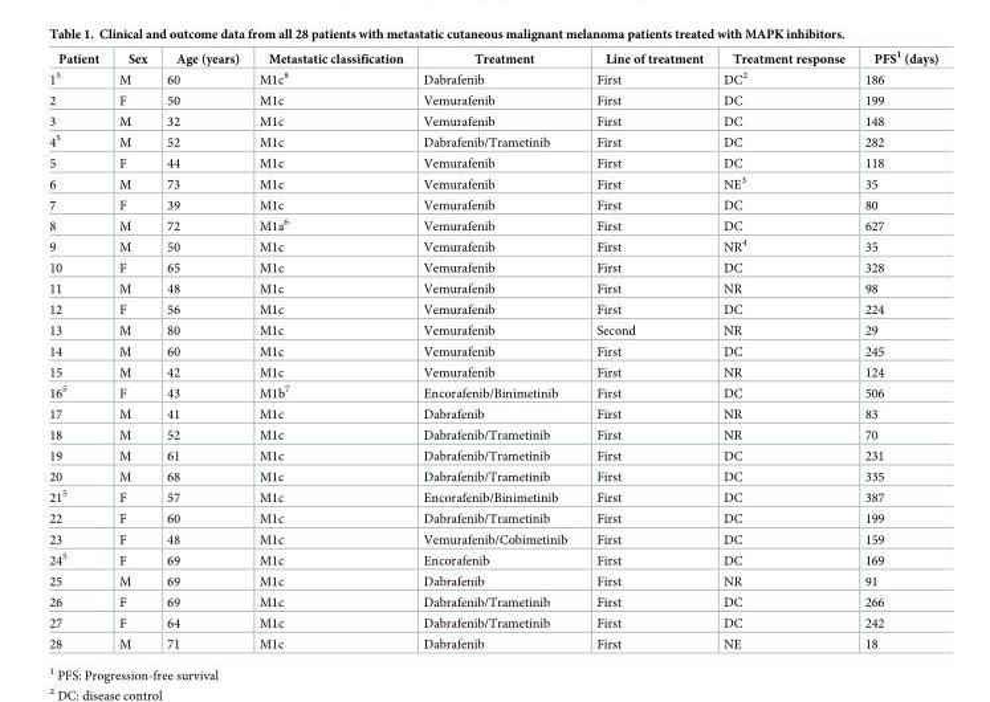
<table><thead><tr><td>Patient</td><td>Sex</td><td>Age (years)</td><td>Metastatic classification</td><td>Treatment</td><td>Line of treatment</td><td>Treatment response</td><td>PFS<sup>1</sup> (days)</td></tr></thead><tbody><tr><td>1<sup>5</sup></td><td>M</td><td>60</td><td>M1c<sup>8</sup></td><td>Dabrafenib</td><td>First</td><td>DC<sup>2</sup></td><td>186</td></tr><tr><td>2</td><td>F</td><td>50</td><td>M1c</td><td>Vemurafenib</td><td>First</td><td>DC</td><td>199</td></tr><tr><td>3</td><td>M</td><td>32</td><td>M1c</td><td>Vemurafenib</td><td>First</td><td>DC</td><td>148</td></tr><tr><td>4<sup>5</sup></td><td>M</td><td>52</td><td>M1c</td><td>Dabrafenib/Trametinib</td><td>First</td><td>DC</td><td>282</td></tr><tr><td>5</td><td>F</td><td>44</td><td>M1c</td><td>Vemurafenib</td><td>First</td><td>DC</td><td>118</td></tr><tr><td>6</td><td>M</td><td>73</td><td>M1c</td><td>Vemurafenib</td><td>First</td><td>NE<sup>3</sup></td><td>35</td></tr><tr><td>7</td><td>F</td><td>39</td><td>M1c</td><td>Vemurafenib</td><td>First</td><td>DC</td><td>80</td></tr><tr><td>8</td><td>M</td><td>72</td><td>M1a<sup>6</sup></td><td>Vemurafenib</td><td>First</td><td>DC</td><td>627</td></tr><tr><td>9</td><td>M</td><td>50</td><td>M1c</td><td>Vemurafenib</td><td>First</td><td>NR<sup>4</sup></td><td>35</td></tr><tr><td>10</td><td>F</td><td>65</td><td>M1c</td><td>Vemurafenib</td><td>First</td><td>DC</td><td>328</td></tr><tr><td>11</td><td>M</td><td>48</td><td>M1c</td><td>Vemurafenib</td><td>First</td><td>NR</td><td>98</td></tr><tr><td>12</td><td>F</td><td>56</td><td>M1c</td><td>Vemurafenib</td><td>First</td><td>DC</td><td>224</td></tr><tr><td>13</td><td>M</td><td>80</td><td>M1c</td><td>Vemurafenib</td><td>Second</td><td>NR</td><td>29</td></tr><tr><td>14</td><td>M</td><td>60</td><td>M1c</td><td>Vemurafenib</td><td>First</td><td>DC</td><td>245</td></tr><tr><td>15</td><td>M</td><td>42</td><td>M1c</td><td>Vemurafenib</td><td>First</td><td>NR</td><td>124</td></tr><tr><td>16<sup>5</sup></td><td>F</td><td>43</td><td>M1b<sup>7</sup></td><td>Encorafenib/Binimetinib</td><td>First</td><td>DC</td><td>506</td></tr><tr><td>17</td><td>M</td><td>41</td><td>M1c</td><td>Dabrafenib</td><td>First</td><td>NR</td><td>83</td></tr><tr><td>18</td><td>M</td><td>52</td><td>M1c</td><td>Dabrafenib/Trametinib</td><td>First</td><td>NR</td><td>70</td></tr><tr><td>19</td><td>M</td><td>61</td><td>M1c</td><td>Dabrafenib/Trametinib</td><td>First</td><td>DC</td><td>231</td></tr><tr><td>20</td><td>M</td><td>68</td><td>M1c</td><td>Dabrafenib/Trametinib</td><td>First</td><td>DC</td><td>335</td></tr><tr><td>21<sup>5</sup></td><td>F</td><td>57</td><td>M1c</td><td>Encorafenib/Binimetinib</td><td>First</td><td>DC</td><td>387</td></tr><tr><td>22</td><td>F</td><td>60</td><td>M1c</td><td>Dabrafenib/Trametinib</td><td>First</td><td>DC</td><td>199</td></tr><tr><td>23</td><td>F</td><td>48</td><td>M1c</td><td>Vemurafenib/Cobimetinib</td><td>First</td><td>DC</td><td>159</td></tr><tr><td>24<sup>5</sup></td><td>F</td><td>69</td><td>M1c</td><td>Encorafenib</td><td>First</td><td>DC</td><td>169</td></tr><tr><td>25</td><td>M</td><td>69</td><td>M1c</td><td>Dabrafenib</td><td>First</td><td>NR</td><td>91</td></tr><tr><td>26</td><td>F</td><td>69</td><td>M1c</td><td>Dabrafenib/Trametinib</td><td>First</td><td>DC</td><td>266</td></tr><tr><td>27</td><td>F</td><td>64</td><td>M1c</td><td>Dabrafenib/Trametinib</td><td>First</td><td>DC</td><td>242</td></tr><tr><td>28</td><td>M</td><td>71</td><td>M1c</td><td>Dabrafenib</td><td>First</td><td>NE</td><td>18</td></tr></tbody></table>